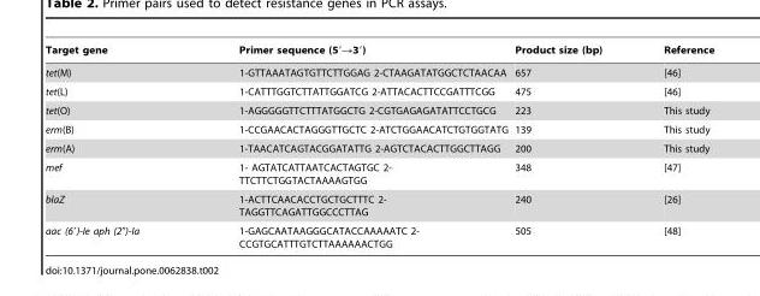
<table><thead><tr><td>Target gene</td><td>Primer sequence (5′→3′)</td><td>Product size (bp)</td><td>Reference</td></tr></thead><tbody><tr><td>tet(M)</td><td>1-GTTAAATAGTGTTCTTGGAG 2-CTAAGATATGGCTCTAACAA</td><td>657</td><td>[46]</td></tr><tr><td>tet(L)</td><td>1-CATTTGGTCTTATTGGATCG 2-ATTACACTTCCGATTTCGG</td><td>475</td><td>[46]</td></tr><tr><td>tet(O)</td><td>1-AGGGGGTTCTTTATGGCTG 2-CGTGAGAGATATTCCTGCG</td><td>223</td><td>This study</td></tr><tr><td>erm(B)</td><td>1-CCGAACACTAGGGTTGCTC 2-ATCTGGAACATCTGTGGTATG</td><td>139</td><td>This study</td></tr><tr><td>erm(A)</td><td>1-TAACATCAGTACGGATATTG 2-AGTCTACACTTGGCTTAGG</td><td>200</td><td>This study</td></tr><tr><td>mef</td><td>1- AGTATCATTAATCACTAGTGC 2- TTCTTCTGGTACTAAAAGTGG</td><td>348</td><td>[47]</td></tr><tr><td>blaZ</td><td>1-ACTTCAACACCTGCTGCTTTC 2- TAGGTTCAGATTGGCCCTTAG</td><td>240</td><td>[26]</td></tr><tr><td>aac (6′)-Ie aph (2″)-Ia</td><td>1-GAGCAATAAGGGCATACCAAAAATC 2- CCGTGCATTTGTCTTAAAAAACTGG</td><td>505</td><td>[48]</td></tr></tbody></table>